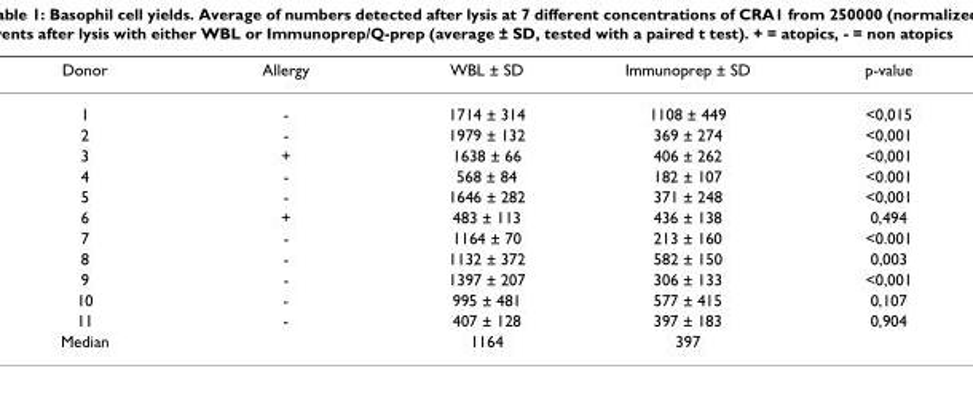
<table><thead><tr><td>Donor</td><td>Allergy</td><td>WBL ± SD</td><td>Immunoprep ± SD</td><td>p-value</td></tr></thead><tbody><tr><td>1</td><td>-</td><td>1714 ± 314</td><td>1108 ± 449</td><td>&lt;0,015</td></tr><tr><td>2</td><td>-</td><td>1979 ± 132</td><td>369 ± 274</td><td>&lt;0,001</td></tr><tr><td>3</td><td>+</td><td>1638 ± 66</td><td>406 ± 262</td><td>&lt;0,001</td></tr><tr><td>4</td><td>-</td><td>568 ± 84</td><td>182 ± 107</td><td>&lt;0.001</td></tr><tr><td>5</td><td>-</td><td>1646 ± 282</td><td>371 ± 248</td><td>&lt;0,001</td></tr><tr><td>6</td><td>+</td><td>483 ± 113</td><td>436 ± 138</td><td>0,494</td></tr><tr><td>7</td><td>-</td><td>1164 ± 70</td><td>213 ± 160</td><td>&lt;0.001</td></tr><tr><td>8</td><td>-</td><td>1132 ± 372</td><td>582 ± 150</td><td>0,003</td></tr><tr><td>9</td><td>-</td><td>1397 ± 207</td><td>306 ± 133</td><td>&lt;0,001</td></tr><tr><td>10</td><td>-</td><td>995 ± 481</td><td>577 ± 415</td><td>0,107</td></tr><tr><td>11</td><td>-</td><td>407 ± 128</td><td>397 ± 183</td><td>0,904</td></tr><tr><td>Median</td><td></td><td>1164</td><td>397</td><td></td></tr></tbody></table>